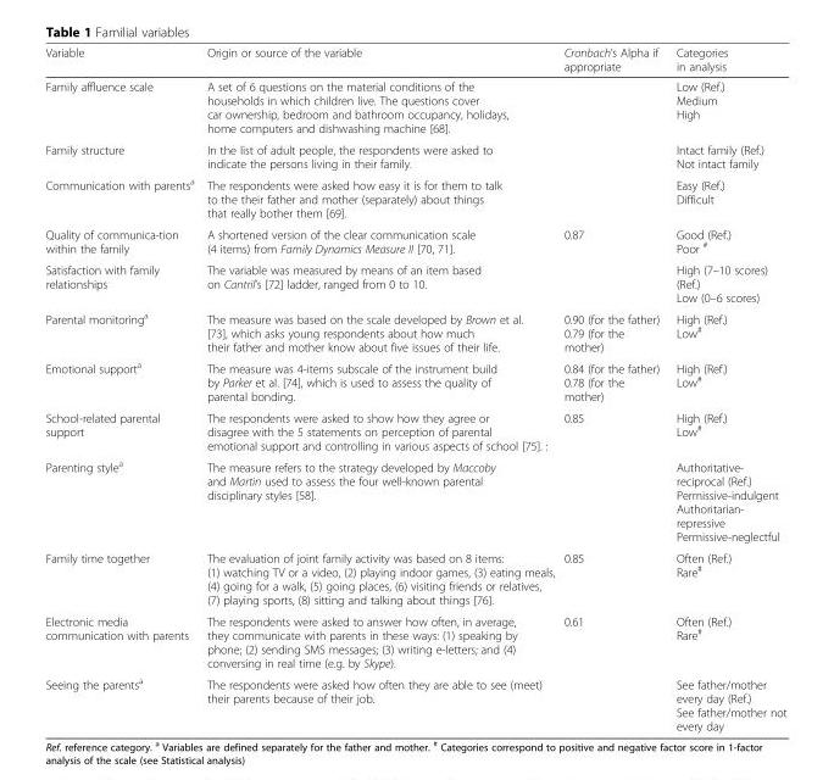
<table><thead><tr><td>Variable</td><td>Origin or source of the variable</td><td>Cronbach’s Alpha if appropriate</td><td>Categories in analysis</td></tr></thead><tbody><tr><td>Family affluence scale</td><td>A set of 6 questions on the material conditions of the households in which children live. The questions cover car ownership, bedroom and bathroom occupancy, holidays, home computers and dishwashing machine [68].</td><td></td><td>Low (Ref.) Medium High</td></tr><tr><td>Family structure</td><td>In the list of adult people, the respondents were asked to indicate the persons living in their family.</td><td></td><td>Intact family (Ref.) Not intact family</td></tr><tr><td>Communication with parents<sup>a</sup></td><td>The respondents were asked how easy it is for them to talk to the their father and mother (separately) about things that really bother them [69].</td><td></td><td>Easy (Ref.) Difficult</td></tr><tr><td>Quality of communica-tion within the family</td><td>A shortened version of the clear communication scale (4 items) from Family Dynamics Measure II [70, 71].</td><td>0.87</td><td>Good (Ref.) Poor <sup>#</sup></td></tr><tr><td>Satisfaction with family relationships</td><td>The variable was measured by means of an item based on Cantril’s [72] ladder, ranged from 0 to 10.</td><td></td><td>High (7–10 scores) (Ref.) Low (0–6 scores)</td></tr><tr><td>Parental monitoring<sup>a</sup></td><td>The measure was based on the scale developed by Brown et al. [73], which asks young respondents about how much their father and mother know about five issues of their life.</td><td>0.90 (for the father) 0.79 (for the mother)</td><td>High (Ref.) Low<sup>#</sup></td></tr><tr><td>Emotional support<sup>a</sup></td><td>The measure was 4-items subscale of the instrument build by Parker et al. [74], which is used to assess the quality of parental bonding.</td><td>0.84 (for the father) 0.78 (for the mother)</td><td>High (Ref.) Low<sup>#</sup></td></tr><tr><td>School-related parental support</td><td>The respondents were asked to show how they agree or disagree with the 5 statements on perception of parental emotional support and controlling in various aspects of school [75]. :</td><td>0.85</td><td>High (Ref.) Low<sup>#</sup></td></tr><tr><td>Parenting style<sup>a</sup></td><td>The measure refers to the strategy developed by Maccoby and Martin used to assess the four well-known parental disciplinary styles [58].</td><td></td><td>Authoritative- reciprocal (Ref.) Permissive-indulgent Authoritarian- repressive Permissive-neglectful</td></tr><tr><td>Family time together</td><td>The evaluation of joint family activity was based on 8 items: (1) watching TV or a video, (2) playing indoor games, (3) eating meals, (4) going for a walk, (5) going places, (6) visiting friends or relatives, (7) playing sports, (8) sitting and talking about things [76].</td><td>0.85</td><td>Often (Ref.) Rare<sup>#</sup></td></tr><tr><td>Electronic media communication with parents</td><td>The respondents were asked to answer how often, in average, they communicate with parents in these ways: (1) speaking by phone; (2) sending SMS messages; (3) writing e-letters; and (4) conversing in real time (e.g. by Skype).</td><td>0.61</td><td>Often (Ref.) Rare<sup>#</sup></td></tr><tr><td>Seeing the parents<sup>a</sup></td><td>The respondents were asked how often they are able to see (meet) their parents because of their job.</td><td></td><td>See father/mother every day (Ref.) See father/mother not every day</td></tr></tbody></table>